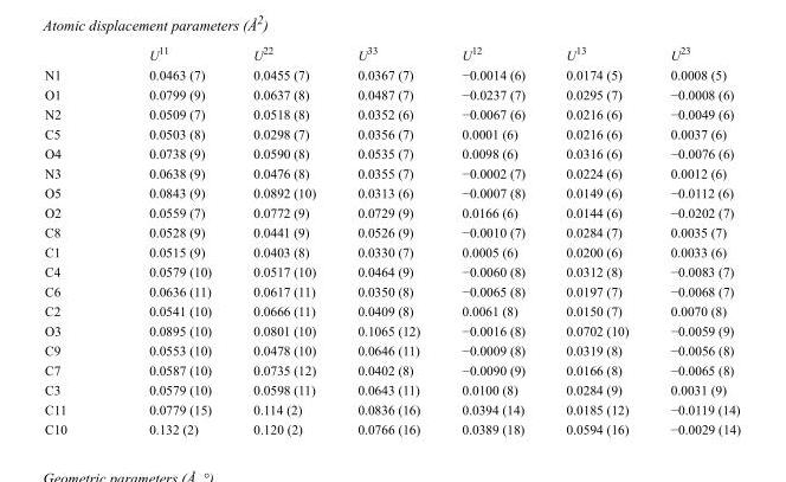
<table><thead><tr><td></td><td>U<sup>11</sup></td><td>U<sup>22</sup></td><td>U<sup>33</sup></td><td>U<sup>12</sup></td><td>U<sup>13</sup></td><td>U<sup>23</sup></td></tr></thead><tbody><tr><td>N1</td><td>0.0463 (7)</td><td>0.0455 (7)</td><td>0.0367 (7)</td><td>−0.0014 (6)</td><td>0.0174 (5)</td><td>0.0008 (5)</td></tr><tr><td>O1</td><td>0.0799 (9)</td><td>0.0637 (8)</td><td>0.0487 (7)</td><td>−0.0237 (7)</td><td>0.0295 (7)</td><td>−0.0008 (6)</td></tr><tr><td>N2</td><td>0.0509 (7)</td><td>0.0518 (8)</td><td>0.0352 (6)</td><td>−0.0067 (6)</td><td>0.0216 (6)</td><td>−0.0049 (6)</td></tr><tr><td>C5</td><td>0.0503 (8)</td><td>0.0298 (7)</td><td>0.0356 (7)</td><td>0.0001 (6)</td><td>0.0216 (6)</td><td>0.0037 (6)</td></tr><tr><td>O4</td><td>0.0738 (9)</td><td>0.0590 (8)</td><td>0.0535 (7)</td><td>0.0098 (6)</td><td>0.0316 (6)</td><td>−0.0076 (6)</td></tr><tr><td>N3</td><td>0.0638 (9)</td><td>0.0476 (8)</td><td>0.0355 (7)</td><td>−0.0002 (7)</td><td>0.0224 (6)</td><td>0.0012 (6)</td></tr><tr><td>O5</td><td>0.0843 (9)</td><td>0.0892 (10)</td><td>0.0313 (6)</td><td>−0.0007 (8)</td><td>0.0149 (6)</td><td>−0.0112 (6)</td></tr><tr><td>O2</td><td>0.0559 (7)</td><td>0.0772 (9)</td><td>0.0729 (9)</td><td>0.0166 (6)</td><td>0.0144 (6)</td><td>−0.0202 (7)</td></tr><tr><td>C8</td><td>0.0528 (9)</td><td>0.0441 (9)</td><td>0.0526 (9)</td><td>−0.0010 (7)</td><td>0.0284 (7)</td><td>0.0035 (7)</td></tr><tr><td>C1</td><td>0.0515 (9)</td><td>0.0403 (8)</td><td>0.0330 (7)</td><td>0.0005 (6)</td><td>0.0200 (6)</td><td>0.0033 (6)</td></tr><tr><td>C4</td><td>0.0579 (10)</td><td>0.0517 (10)</td><td>0.0464 (9)</td><td>−0.0060 (8)</td><td>0.0312 (8)</td><td>−0.0083 (7)</td></tr><tr><td>C6</td><td>0.0636 (11)</td><td>0.0617 (11)</td><td>0.0350 (8)</td><td>−0.0065 (8)</td><td>0.0197 (7)</td><td>−0.0068 (7)</td></tr><tr><td>C2</td><td>0.0541 (10)</td><td>0.0666 (11)</td><td>0.0409 (8)</td><td>0.0061 (8)</td><td>0.0150 (7)</td><td>0.0070 (8)</td></tr><tr><td>O3</td><td>0.0895 (10)</td><td>0.0801 (10)</td><td>0.1065 (12)</td><td>−0.0016 (8)</td><td>0.0702 (10)</td><td>−0.0059 (9)</td></tr><tr><td>C9</td><td>0.0553 (10)</td><td>0.0478 (10)</td><td>0.0646 (11)</td><td>−0.0009 (8)</td><td>0.0319 (8)</td><td>−0.0056 (8)</td></tr><tr><td>C7</td><td>0.0587 (10)</td><td>0.0735 (12)</td><td>0.0402 (8)</td><td>−0.0090 (9)</td><td>0.0166 (8)</td><td>−0.0065 (8)</td></tr><tr><td>C3</td><td>0.0579 (10)</td><td>0.0598 (11)</td><td>0.0643 (11)</td><td>0.0100 (8)</td><td>0.0284 (9)</td><td>0.0031 (9)</td></tr><tr><td>C11</td><td>0.0779 (15)</td><td>0.114 (2)</td><td>0.0836 (16)</td><td>0.0394 (14)</td><td>0.0185 (12)</td><td>−0.0119 (14)</td></tr><tr><td>C10</td><td>0.132 (2)</td><td>0.120 (2)</td><td>0.0766 (16)</td><td>0.0389 (18)</td><td>0.0594 (16)</td><td>−0.0029 (14)</td></tr></tbody></table>